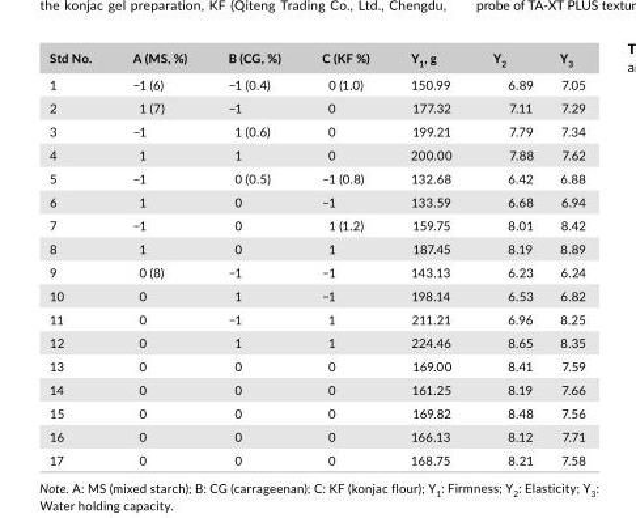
<table><thead><tr><td>Std No.</td><td>A (MS, %)</td><td>B (CG, %)</td><td>C (KF %)</td><td>Y<sub>1</sub>, g</td><td>Y<sub>2</sub></td><td>Y<sub>3</sub></td></tr></thead><tbody><tr><td>1</td><td>−1 (6)</td><td>−1 (0.4)</td><td>0 (1.0)</td><td>150.99</td><td>6.89</td><td>7.05</td></tr><tr><td>2</td><td>1 (7)</td><td>−1</td><td>0</td><td>177.32</td><td>7.11</td><td>7.29</td></tr><tr><td>3</td><td>−1</td><td>1 (0.6)</td><td>0</td><td>199.21</td><td>7.79</td><td>7.34</td></tr><tr><td>4</td><td>1</td><td>1</td><td>0</td><td>200.00</td><td>7.88</td><td>7.62</td></tr><tr><td>5</td><td>−1</td><td>0 (0.5)</td><td>−1 (0.8)</td><td>132.68</td><td>6.42</td><td>6.88</td></tr><tr><td>6</td><td>1</td><td>0</td><td>−1</td><td>133.59</td><td>6.68</td><td>6.94</td></tr><tr><td>7</td><td>−1</td><td>0</td><td>1 (1.2)</td><td>159.75</td><td>8.01</td><td>8.42</td></tr><tr><td>8</td><td>1</td><td>0</td><td>1</td><td>187.45</td><td>8.19</td><td>8.89</td></tr><tr><td>9</td><td>0 (8)</td><td>−1</td><td>−1</td><td>143.13</td><td>6.23</td><td>6.24</td></tr><tr><td>10</td><td>0</td><td>1</td><td>−1</td><td>198.14</td><td>6.53</td><td>6.82</td></tr><tr><td>11</td><td>0</td><td>−1</td><td>1</td><td>211.21</td><td>6.96</td><td>8.25</td></tr><tr><td>12</td><td>0</td><td>1</td><td>1</td><td>224.46</td><td>8.65</td><td>8.35</td></tr><tr><td>13</td><td>0</td><td>0</td><td>0</td><td>169.00</td><td>8.41</td><td>7.59</td></tr><tr><td>14</td><td>0</td><td>0</td><td>0</td><td>161.25</td><td>8.19</td><td>7.66</td></tr><tr><td>15</td><td>0</td><td>0</td><td>0</td><td>169.82</td><td>8.48</td><td>7.56</td></tr><tr><td>16</td><td>0</td><td>0</td><td>0</td><td>166.13</td><td>8.12</td><td>7.71</td></tr><tr><td>17</td><td>0</td><td>0</td><td>0</td><td>168.75</td><td>8.21</td><td>7.58</td></tr></tbody></table>